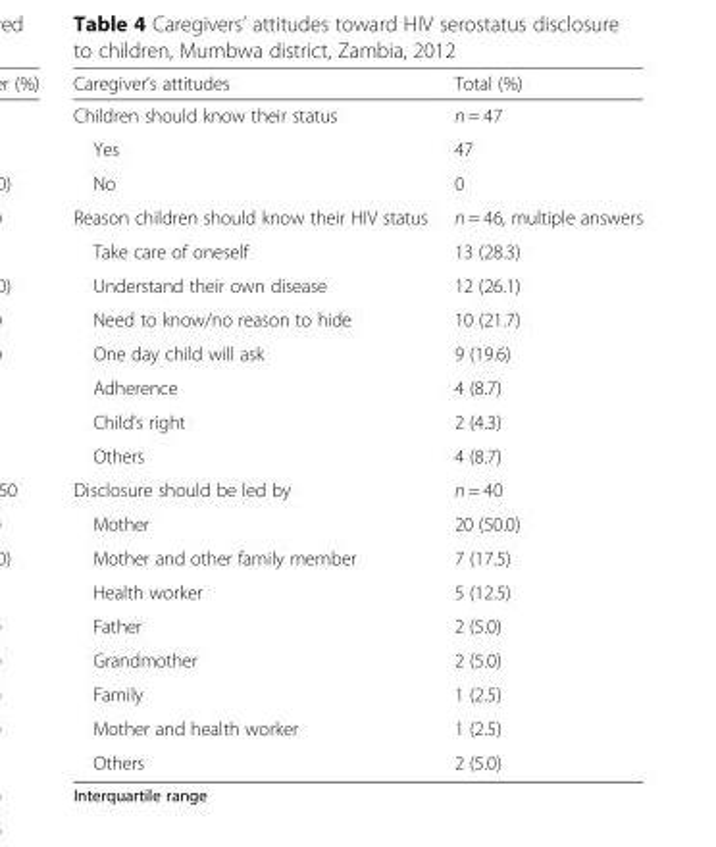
<table><thead><tr><td>Caregiver’s attitudes</td><td>Total (%)</td></tr></thead><tbody><tr><td>Children should know their status</td><td>n = 47</td></tr><tr><td>Yes</td><td>47</td></tr><tr><td>No</td><td>0</td></tr><tr><td>Reason children should know their HIV status</td><td>n = 46, multiple answers</td></tr><tr><td>Take care of oneself</td><td>13 (28.3)</td></tr><tr><td>Understand their own disease</td><td>12 (26.1)</td></tr><tr><td>Need to know/no reason to hide</td><td>10 (21.7)</td></tr><tr><td>One day child will ask</td><td>9 (19.6)</td></tr><tr><td>Adherence</td><td>4 (8.7)</td></tr><tr><td>Child’s right</td><td>2 (4.3)</td></tr><tr><td>Others</td><td>4 (8.7)</td></tr><tr><td>Disclosure should be led by</td><td>n = 40</td></tr><tr><td>Mother</td><td>20 (50.0)</td></tr><tr><td>Mother and other family member</td><td>7 (17.5)</td></tr><tr><td>Health worker</td><td>5 (12.5)</td></tr><tr><td>Father</td><td>2 (5.0)</td></tr><tr><td>Grandmother</td><td>2 (5.0)</td></tr><tr><td>Family</td><td>1 (2.5)</td></tr><tr><td>Mother and health worker</td><td>1 (2.5)</td></tr><tr><td>Others</td><td>2 (5.0)</td></tr></tbody></table>